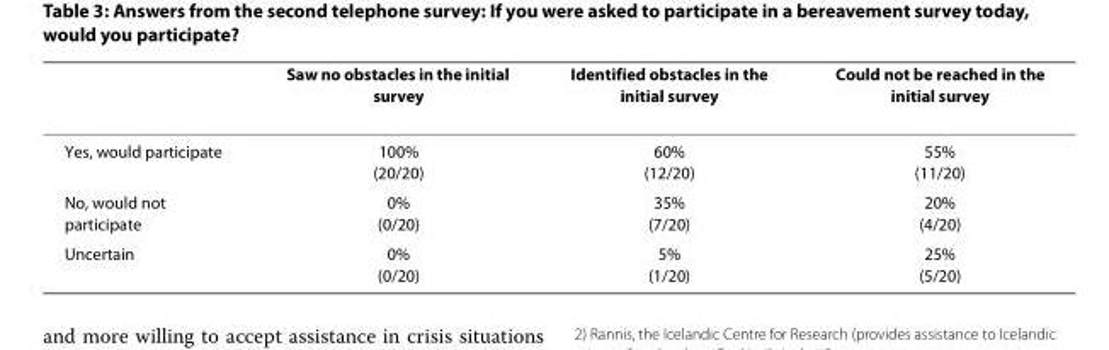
<table><thead><tr><td></td><td>Saw no obstacles in the initial survey</td><td>Identified obstacles in the initial survey</td><td>Could not be reached in the initial survey</td></tr></thead><tbody><tr><td>Yes, would participate</td><td>100% (20/20)</td><td>60% (12/20)</td><td>55% (11/20)</td></tr><tr><td>No, would not participate</td><td>0% (0/20)</td><td>35% (7/20)</td><td>20% (4/20)</td></tr><tr><td>Uncertain</td><td>0% (0/20)</td><td>5% (1/20)</td><td>25% (5/20)</td></tr></tbody></table>